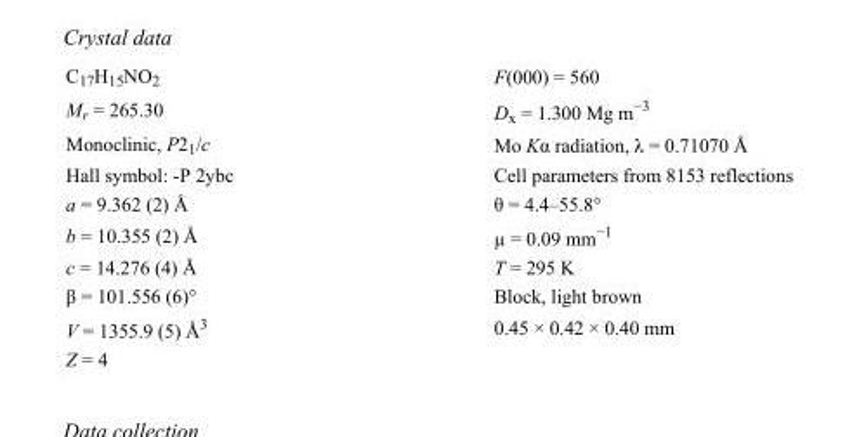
<table><tbody><tr><td>C<sub>17</sub>H<sub>15</sub>NO<sub>2</sub></td><td>F(000) = 560</td></tr><tr><td>M<sub>r</sub> = 265.30</td><td>D<sub>x</sub> = 1.300 Mg m<sup>−3</sup></td></tr><tr><td>Monoclinic, P2<sub>1</sub>/c</td><td>Mo Kα radiation, λ = 0.71070 Å</td></tr><tr><td>Hall symbol: -P 2ybc</td><td>Cell parameters from 8153 reflections</td></tr><tr><td>a = 9.362 (2) Å</td><td>θ = 4.4–55.8°</td></tr><tr><td>b = 10.355 (2) Å</td><td>µ = 0.09 mm<sup>−1</sup></td></tr><tr><td>c = 14.276 (4) Å</td><td>T = 295 K</td></tr><tr><td>β = 101.556 (6)°</td><td>Block, light brown</td></tr><tr><td>V = 1355.9 (5) Å<sup>3</sup></td><td>0.45 × 0.42 × 0.40 mm</td></tr><tr><td>Z = 4</td><td></td></tr></tbody></table>